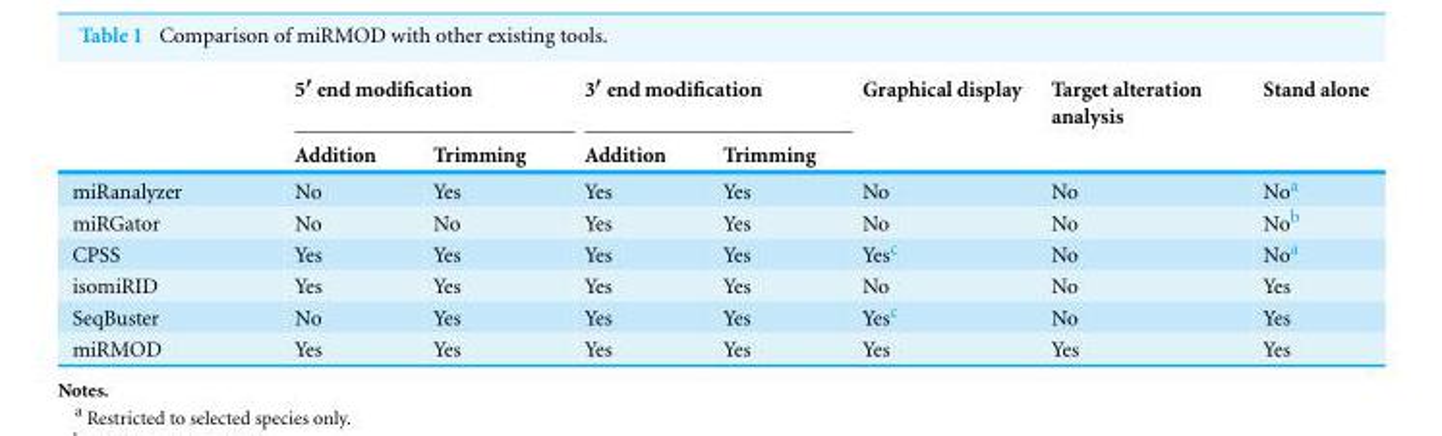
<table><thead><tr><td rowspan="2"></td><td colspan="2">5′ end modification</td><td colspan="2">3′ end modification</td><td rowspan="2">Graphical display</td><td rowspan="2">Target alteration analysis</td><td rowspan="2">Stand alone</td></tr><tr><td>Addition</td><td>Trimming</td><td>Addition</td><td>Trimming</td></tr></thead><tbody><tr><td>miRanalyzer</td><td>No</td><td>Yes</td><td>Yes</td><td>Yes</td><td>No</td><td>No</td><td>No<sup>a</sup></td></tr><tr><td>miRGator</td><td>No</td><td>No</td><td>Yes</td><td>Yes</td><td>No</td><td>No</td><td>No<sup>b</sup></td></tr><tr><td>CPSS</td><td>Yes</td><td>Yes</td><td>Yes</td><td>Yes</td><td>Yes<sup>c</sup></td><td>No</td><td>No<sup>a</sup></td></tr><tr><td>isomiRID</td><td>Yes</td><td>Yes</td><td>Yes</td><td>Yes</td><td>No</td><td>No</td><td>Yes</td></tr><tr><td>SeqBuster</td><td>No</td><td>Yes</td><td>Yes</td><td>Yes</td><td>Yes<sup>c</sup></td><td>No</td><td>Yes</td></tr><tr><td>miRMOD</td><td>Yes</td><td>Yes</td><td>Yes</td><td>Yes</td><td>Yes</td><td>Yes</td><td>Yes</td></tr></tbody></table>